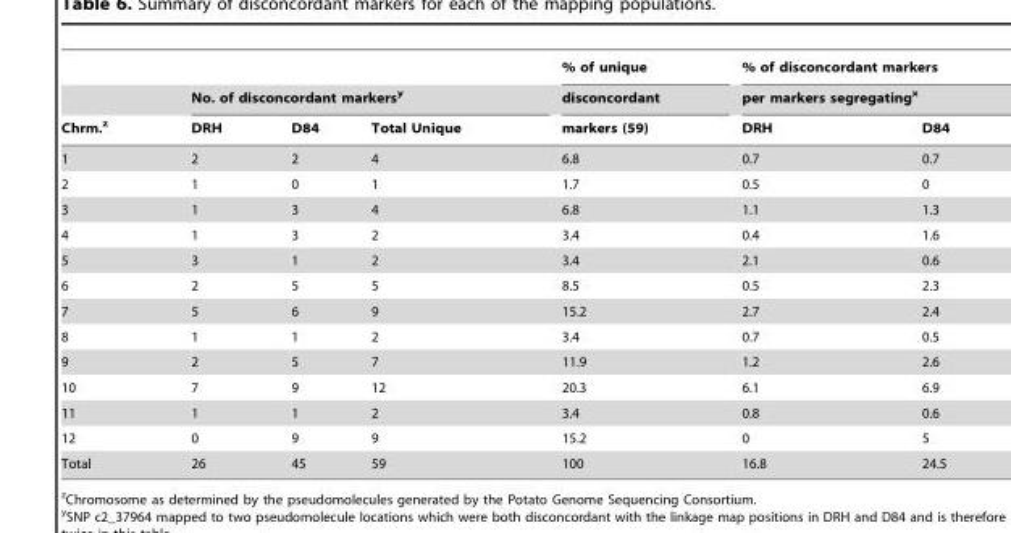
<table><thead><tr><td rowspan="3">Chrm.<sup>z</sup></td><td></td><td></td><td></td><td rowspan="3">% of unique disconcordant markers (59)</td><td rowspan="2" colspan="2">% of disconcordant markers per markers segregating<sup>x</sup></td></tr><tr><td colspan="3">No. of disconcordant markers<sup>y</sup></td></tr><tr><td>DRH</td><td>D84</td><td>Total Unique</td><td>DRH</td><td>D84</td></tr></thead><tbody><tr><td>1</td><td>2</td><td>2</td><td>4</td><td>6.8</td><td>0.7</td><td>0.7</td></tr><tr><td>2</td><td>1</td><td>0</td><td>1</td><td>1.7</td><td>0.5</td><td>0</td></tr><tr><td>3</td><td>1</td><td>3</td><td>4</td><td>6.8</td><td>1.1</td><td>1.3</td></tr><tr><td>4</td><td>1</td><td>3</td><td>2</td><td>3.4</td><td>0.4</td><td>1.6</td></tr><tr><td>5</td><td>3</td><td>1</td><td>2</td><td>3.4</td><td>2.1</td><td>0.6</td></tr><tr><td>6</td><td>2</td><td>5</td><td>5</td><td>8.5</td><td>0.5</td><td>2.3</td></tr><tr><td>7</td><td>5</td><td>6</td><td>9</td><td>15.2</td><td>2.7</td><td>2.4</td></tr><tr><td>8</td><td>1</td><td>1</td><td>2</td><td>3.4</td><td>0.7</td><td>0.5</td></tr><tr><td>9</td><td>2</td><td>5</td><td>7</td><td>11.9</td><td>1.2</td><td>2.6</td></tr><tr><td>10</td><td>7</td><td>9</td><td>12</td><td>20.3</td><td>6.1</td><td>6.9</td></tr><tr><td>11</td><td>1</td><td>1</td><td>2</td><td>3.4</td><td>0.8</td><td>0.6</td></tr><tr><td>12</td><td>0</td><td>9</td><td>9</td><td>15.2</td><td>0</td><td>5</td></tr><tr><td>Total</td><td>26</td><td>45</td><td>59</td><td>100</td><td>16.8</td><td>24.5</td></tr></tbody></table>